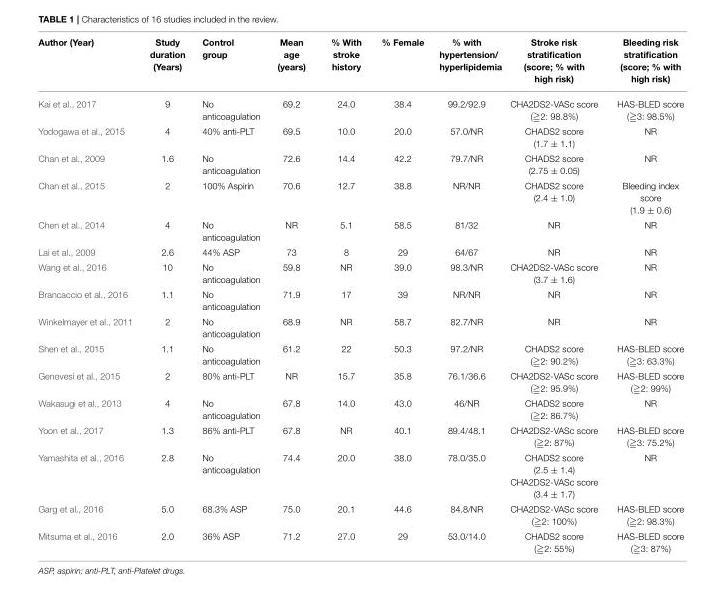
<table><thead><tr><td>Author (Year)</td><td>Study duration (Years)</td><td>Control group</td><td>Mean age (years)</td><td>% With stroke history</td><td>% Female</td><td>% with hypertension/ hyperlipidemia</td><td>Stroke risk stratification (score; % with high risk)</td><td>Bleeding risk stratification (score; % with high risk)</td></tr></thead><tbody><tr><td>Kai et al., 2017</td><td>9</td><td>No anticoagulation</td><td>69.2</td><td>24.0</td><td>38.4</td><td>99.2/92.9</td><td>CHA2DS2-VASc score (≧2: 98.8%)</td><td>HAS-BLED score (≧3: 98.5%)</td></tr><tr><td>Yodogawa et al., 2015</td><td>4</td><td>40% anti-PLT</td><td>69.5</td><td>10.0</td><td>20.0</td><td>57.0/NR</td><td>CHADS2 score (1.7 ± 1.1)</td><td>NR</td></tr><tr><td>Chan et al., 2009</td><td>1.6</td><td>No anticoagulation</td><td>72.6</td><td>14.4</td><td>42.2</td><td>79.7/NR</td><td>CHADS2 score (2.75 ± 0.05)</td><td>NR</td></tr><tr><td>Chan et al., 2015</td><td>2</td><td>100% Aspirin</td><td>70.6</td><td>12.7</td><td>38.8</td><td>NR/NR</td><td>CHADS2 score (2.4 ± 1.0)</td><td>Bleeding index score (1.9 ± 0.6)</td></tr><tr><td>Chen et al., 2014</td><td>4</td><td>No anticoagulation</td><td>NR</td><td>5.1</td><td>58.5</td><td>81/32</td><td>NR</td><td>NR</td></tr><tr><td>Lai et al., 2009</td><td>2.6</td><td>44% ASP</td><td>73</td><td>8</td><td>29</td><td>64/67</td><td>NR</td><td>NR</td></tr><tr><td>Wang et al., 2016</td><td>10</td><td>No anticoagulation</td><td>59.8</td><td>NR</td><td>39.0</td><td>98.3/NR</td><td>CHA2DS2-VASc score (3.7 ± 1.6)</td><td>NR</td></tr><tr><td>Brancaccio et al., 2016</td><td>1.1</td><td>No anticoagulation</td><td>71.9</td><td>17</td><td>39</td><td>NR/NR</td><td>NR</td><td>NR</td></tr><tr><td>Winkelmayer et al., 2011</td><td>2</td><td>No anticoagulation</td><td>68.9</td><td>NR</td><td>58.7</td><td>82.7/NR</td><td>NR</td><td>NR</td></tr><tr><td>Shen et al., 2015</td><td>1.1</td><td>No anticoagulation</td><td>61.2</td><td>22</td><td>50.3</td><td>97.2/NR</td><td>CHADS2 score (≧2: 90.2%)</td><td>HAS-BLED score (≧3: 63.3%)</td></tr><tr><td>Genovesi et al., 2015</td><td>2</td><td>80% anti-PLT</td><td>NR</td><td>15.7</td><td>35.8</td><td>76.1/36.6</td><td>CHA2DS2-VASc score (≧2: 95.9%)</td><td>HAS-BLED score (≧2: 99%)</td></tr><tr><td>Wakasugi et al., 2013</td><td>4</td><td>No anticoagulation</td><td>67.8</td><td>14.0</td><td>43.0</td><td>46/NR</td><td>CHADS2 score (≧2: 86.7%)</td><td>NR</td></tr><tr><td>Yoon et al., 2017</td><td>1.3</td><td>86% anti-PLT</td><td>67.8</td><td>NR</td><td>40.1</td><td>89.4/48.1</td><td>CHA2DS2-VASc score (≧2: 87%)</td><td>HAS-BLED score (≧3: 75.2%)</td></tr><tr><td>Yamashita et al., 2016</td><td>2.8</td><td>No anticoagulation</td><td>74.4</td><td>20.0</td><td>38.0</td><td>78.0/35.0</td><td>CHADS2 score (2.5 ± 1.4) CHA2DS2-VASc score (3.4 ± 1.7)</td><td>NR</td></tr><tr><td>Garg et al., 2016</td><td>5.0</td><td>68.3% ASP</td><td>75.0</td><td>20.1</td><td>44.6</td><td>84.8/NR</td><td>CHA2DS2-VASc score (≧2: 100%)</td><td>HAS-BLED score (≧2: 98.3%)</td></tr><tr><td>Mitsuma et al., 2016</td><td>2.0</td><td>36% ASP</td><td>71.2</td><td>27.0</td><td>29</td><td>53.0/14.0</td><td>CHADS2 score (≧2: 55%)</td><td>HAS-BLED score (≧3: 87%)</td></tr></tbody></table>